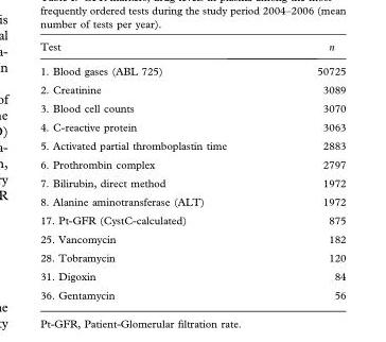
<table><thead><tr><td>Test</td><td>n</td></tr></thead><tbody><tr><td>1. Blood gases (ABL 725)</td><td>50725</td></tr><tr><td>2. Creatinine</td><td>3089</td></tr><tr><td>3. Blood cell counts</td><td>3070</td></tr><tr><td>4. C-reactive protein</td><td>3063</td></tr><tr><td>5. Activated partial thromboplastin time</td><td>2883</td></tr><tr><td>6. Prothrombin complex</td><td>2797</td></tr><tr><td>7. Bilirubin, direct method</td><td>1972</td></tr><tr><td>8. Alanine aminotransferase (ALT)</td><td>1972</td></tr><tr><td>17. Pt-GFR (CystC-calculated)</td><td>875</td></tr><tr><td>25. Vancomycin</td><td>182</td></tr><tr><td>28. Tobramycin</td><td>120</td></tr><tr><td>31. Digoxin</td><td>84</td></tr><tr><td>36. Gentamycin</td><td>56</td></tr></tbody></table>